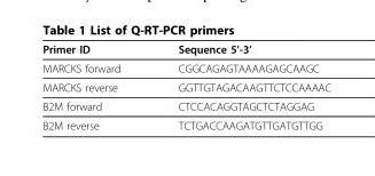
<table><thead><tr><td>Primer ID</td><td>Sequence 5’-3’</td></tr></thead><tbody><tr><td>MARCKS forward</td><td>CGGCAGAGTAAAAGAGCAAGC</td></tr><tr><td>MARCKS reverse</td><td>GGTTGTAGACAAGTTCTCCAAAAC</td></tr><tr><td>B2M forward</td><td>CTCCACAGGTAGCTCTAGGAG</td></tr><tr><td>B2M reverse</td><td>TCTGACCAAGATGTTGATGTTGG</td></tr></tbody></table>